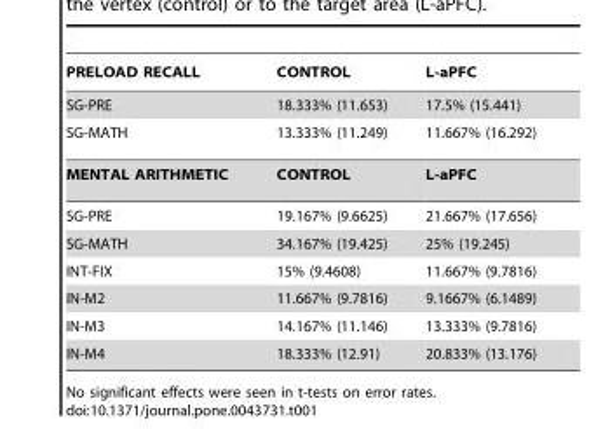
<table><thead><tr><td>PRELOAD RECALL</td><td>CONTROL</td><td>L-aPFC</td></tr></thead><tbody><tr><td>SG-PRE</td><td>18.333% (11.653)</td><td>17.5% (15.441)</td></tr><tr><td>SG-MATH</td><td>13.333% (11.249)</td><td>11.667% (16.292)</td></tr><tr><td>MENTAL ARITHMETIC</td><td>CONTROL</td><td>L-aPFC</td></tr><tr><td>SG-PRE</td><td>19.167% (9.6625)</td><td>21.667% (17.656)</td></tr><tr><td>SG-MATH</td><td>34.167% (19.425)</td><td>25% (19.245)</td></tr><tr><td>INT-FIX</td><td>15% (9.4608)</td><td>11.667% (9.7816)</td></tr><tr><td>IN-M2</td><td>11.667% (9.7816)</td><td>9.1667% (6.1489)</td></tr><tr><td>IN-M3</td><td>14.167% (11.146)</td><td>13.333% (9.7816)</td></tr><tr><td>IN-M4</td><td>18.333% (12.91)</td><td>20.833% (13.176)</td></tr></tbody></table>